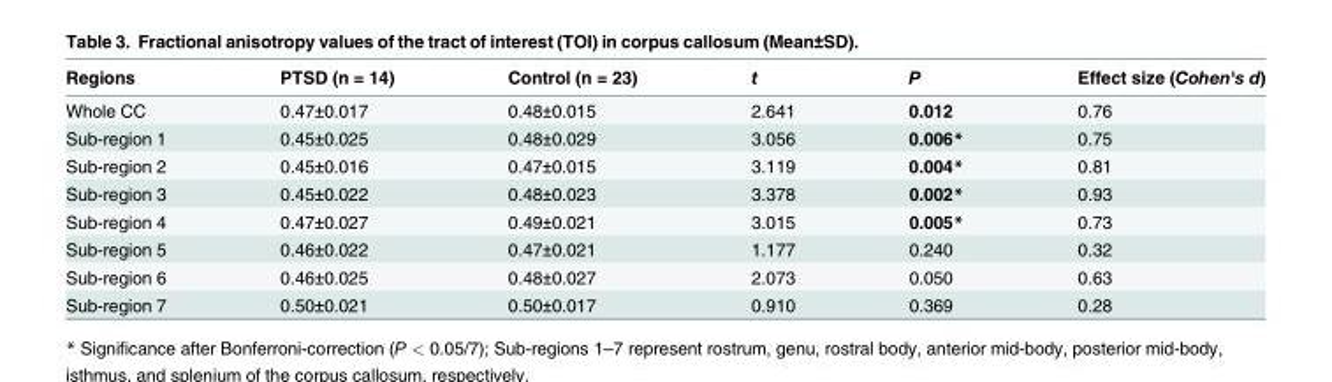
<table><thead><tr><td>Regions</td><td>PTSD (n = 14)</td><td>Control (n = 23)</td><td>t</td><td>P</td><td>Effect size (Cohen&#x27;s d)</td></tr></thead><tbody><tr><td>Whole CC</td><td>0.47±0.017</td><td>0.48±0.015</td><td>2.641</td><td>0.012</td><td>0.76</td></tr><tr><td>Sub-region 1</td><td>0.45±0.025</td><td>0.48±0.029</td><td>3.056</td><td>0.006*</td><td>0.75</td></tr><tr><td>Sub-region 2</td><td>0.45±0.016</td><td>0.47±0.015</td><td>3.119</td><td>0.004*</td><td>0.81</td></tr><tr><td>Sub-region 3</td><td>0.45±0.022</td><td>0.48±0.023</td><td>3.378</td><td>0.002*</td><td>0.93</td></tr><tr><td>Sub-region 4</td><td>0.47±0.027</td><td>0.49±0.021</td><td>3.015</td><td>0.005*</td><td>0.73</td></tr><tr><td>Sub-region 5</td><td>0.46±0.022</td><td>0.47±0.021</td><td>1.177</td><td>0.240</td><td>0.32</td></tr><tr><td>Sub-region 6</td><td>0.46±0.025</td><td>0.48±0.027</td><td>2.073</td><td>0.050</td><td>0.63</td></tr><tr><td>Sub-region 7</td><td>0.50±0.021</td><td>0.50±0.017</td><td>0.910</td><td>0.369</td><td>0.28</td></tr></tbody></table>